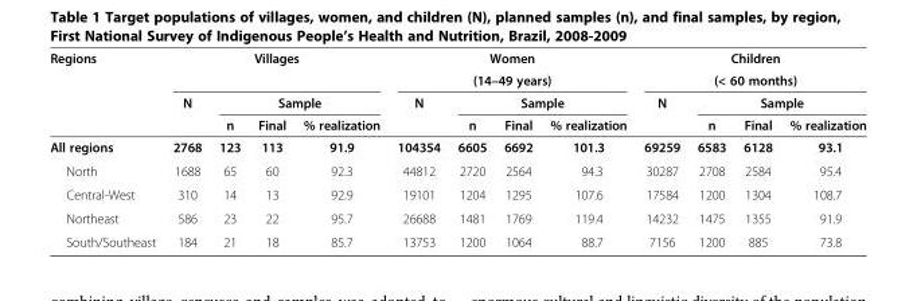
<table><thead><tr><td rowspan="4">Regions</td><td colspan="4">Villages</td><td rowspan="2" colspan="4">Women (14–49 years)</td><td rowspan="2" colspan="4">Children (&lt; 60 months)</td></tr><tr><td rowspan="3">N</td><td></td><td></td><td></td></tr><tr><td colspan="3">Sample</td><td rowspan="2">N</td><td colspan="3">Sample</td><td rowspan="2">N</td><td colspan="3">Sample</td></tr><tr><td>n</td><td>Final</td><td>% realization</td><td>n</td><td>Final</td><td>% realization</td><td>n</td><td>Final</td><td>% realization</td></tr></thead><tbody><tr><td>All regions</td><td>2768</td><td>123</td><td>113</td><td>91.9</td><td>104354</td><td>6605</td><td>6692</td><td>101.3</td><td>69259</td><td>6583</td><td>6128</td><td>93.1</td></tr><tr><td>North</td><td>1688</td><td>65</td><td>60</td><td>92.3</td><td>44812</td><td>2720</td><td>2564</td><td>94.3</td><td>30287</td><td>2708</td><td>2584</td><td>95.4</td></tr><tr><td>Central-West</td><td>310</td><td>14</td><td>13</td><td>92.9</td><td>19101</td><td>1204</td><td>1295</td><td>107.6</td><td>17584</td><td>1200</td><td>1304</td><td>108.7</td></tr><tr><td>Northeast</td><td>586</td><td>23</td><td>22</td><td>95.7</td><td>26688</td><td>1481</td><td>1769</td><td>119.4</td><td>14232</td><td>1475</td><td>1355</td><td>91.9</td></tr><tr><td>South/Southeast</td><td>184</td><td>21</td><td>18</td><td>85.7</td><td>13753</td><td>1200</td><td>1064</td><td>88.7</td><td>7156</td><td>1200</td><td>885</td><td>73.8</td></tr></tbody></table>